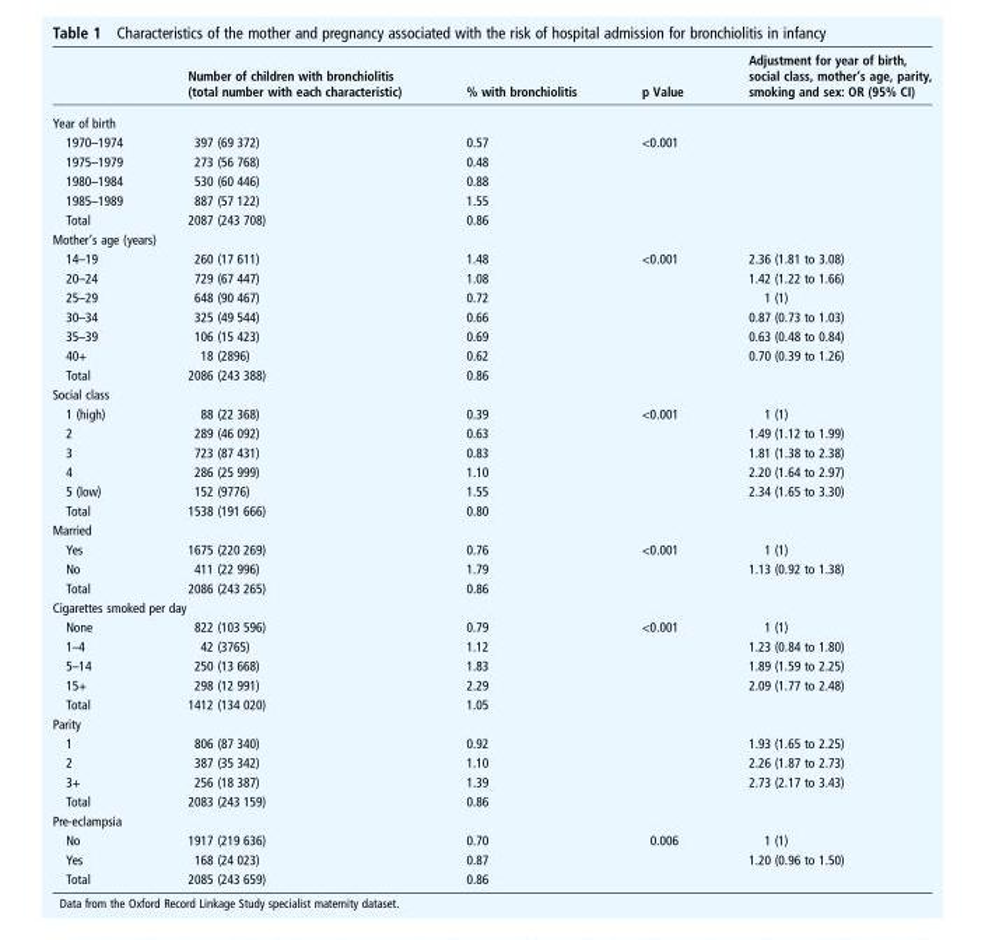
<table><thead><tr><td></td><td>Number of children with bronchiolitis (total number with each characteristic)</td><td>% with bronchiolitis</td><td>p Value</td><td>Adjustment for year of birth, social class, mother’s age, parity, smoking and sex: OR (95% CI)</td></tr></thead><tbody><tr><td colspan="5">Year of birth</td></tr><tr><td>1970–1974</td><td>397 (69 372)</td><td>0.57</td><td>&lt;0.001</td><td></td></tr><tr><td>1975–1979</td><td>273 (56 768)</td><td>0.48</td><td></td><td></td></tr><tr><td>1980–1984</td><td>530 (60 446)</td><td>0.88</td><td></td><td></td></tr><tr><td>1985–1989</td><td>887 (57 122)</td><td>1.55</td><td></td><td></td></tr><tr><td>Total</td><td>2087 (243 708)</td><td>0.86</td><td></td><td></td></tr><tr><td colspan="5">Mother’s age (years)</td></tr><tr><td>14–19</td><td>260 (17 611)</td><td>1.48</td><td>&lt;0.001</td><td>2.36 (1.81 to 3.08)</td></tr><tr><td>20–24</td><td>729 (67 447)</td><td>1.08</td><td></td><td>1.42 (1.22 to 1.66)</td></tr><tr><td>25–29</td><td>648 (90 467)</td><td>0.72</td><td></td><td>1 (1)</td></tr><tr><td>30–34</td><td>325 (49 544)</td><td>0.66</td><td></td><td>0.87 (0.73 to 1.03)</td></tr><tr><td>35–39</td><td>106 (15 423)</td><td>0.69</td><td></td><td>0.63 (0.48 to 0.84)</td></tr><tr><td>40+</td><td>18 (2896)</td><td>0.62</td><td></td><td>0.70 (0.39 to 1.26)</td></tr><tr><td>Total</td><td>2086 (243 388)</td><td>0.86</td><td></td><td></td></tr><tr><td colspan="5">Social class</td></tr><tr><td>1 (high)</td><td>88 (22 368)</td><td>0.39</td><td>&lt;0.001</td><td>1 (1)</td></tr><tr><td>2</td><td>289 (46 092)</td><td>0.63</td><td></td><td>1.49 (1.12 to 1.99)</td></tr><tr><td>3</td><td>723 (87 431)</td><td>0.83</td><td></td><td>1.81 (1.38 to 2.38)</td></tr><tr><td>4</td><td>286 (25 999)</td><td>1.10</td><td></td><td>2.20 (1.64 to 2.97)</td></tr><tr><td>5 (low)</td><td>152 (9776)</td><td>1.55</td><td></td><td>2.34 (1.65 to 3.30)</td></tr><tr><td>Total</td><td>1538 (191 666)</td><td>0.80</td><td></td><td></td></tr><tr><td colspan="5">Married</td></tr><tr><td>Yes</td><td>1675 (220 269)</td><td>0.76</td><td>&lt;0.001</td><td>1 (1)</td></tr><tr><td>No</td><td>411 (22 996)</td><td>1.79</td><td></td><td>1.13 (0.92 to 1.38)</td></tr><tr><td>Total</td><td>2086 (243 265)</td><td>0.86</td><td></td><td></td></tr><tr><td colspan="5">Cigarettes smoked per day</td></tr><tr><td>None</td><td>822 (103 596)</td><td>0.79</td><td>&lt;0.001</td><td>1 (1)</td></tr><tr><td>1–4</td><td>42 (3765)</td><td>1.12</td><td></td><td>1.23 (0.84 to 1.80)</td></tr><tr><td>5–14</td><td>250 (13 668)</td><td>1.83</td><td></td><td>1.89 (1.59 to 2.25)</td></tr><tr><td>15+</td><td>298 (12 991)</td><td>2.29</td><td></td><td>2.09 (1.77 to 2.48)</td></tr><tr><td>Total</td><td>1412 (134 020)</td><td>1.05</td><td></td><td></td></tr><tr><td colspan="5">Parity</td></tr><tr><td>1</td><td>806 (87 340)</td><td>0.92</td><td></td><td>1.93 (1.65 to 2.25)</td></tr><tr><td>2</td><td>387 (35 342)</td><td>1.10</td><td></td><td>2.26 (1.87 to 2.73)</td></tr><tr><td>3+</td><td>256 (18 387)</td><td>1.39</td><td></td><td>2.73 (2.17 to 3.43)</td></tr><tr><td>Total</td><td>2083 (243 159)</td><td>0.86</td><td></td><td></td></tr><tr><td colspan="5">Pre-eclampsia</td></tr><tr><td>No</td><td>1917 (219 636)</td><td>0.70</td><td>0.006</td><td>1 (1)</td></tr><tr><td>Yes</td><td>168 (24 023)</td><td>0.87</td><td></td><td>1.20 (0.96 to 1.50)</td></tr><tr><td>Total</td><td>2085 (243 659)</td><td>0.86</td><td></td><td></td></tr></tbody></table>